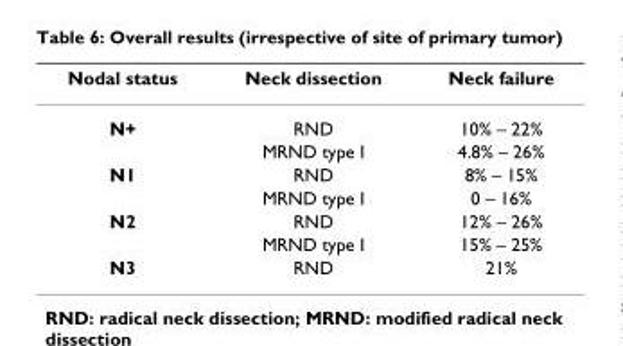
<table><thead><tr><td>Nodal status</td><td>Neck dissection</td><td>Neck failure</td></tr></thead><tbody><tr><td rowspan="2">N+</td><td>RND</td><td>10% – 22%</td></tr><tr><td>MRND type I</td><td>4.8% – 26%</td></tr><tr><td rowspan="2">N1</td><td>RND</td><td>8% – 15%</td></tr><tr><td>MRND type I</td><td>0 – 16%</td></tr><tr><td rowspan="2">N2</td><td>RND</td><td>12% – 26%</td></tr><tr><td>MRND type I</td><td>15% – 25%</td></tr><tr><td>N3</td><td>RND</td><td>21%</td></tr></tbody></table>